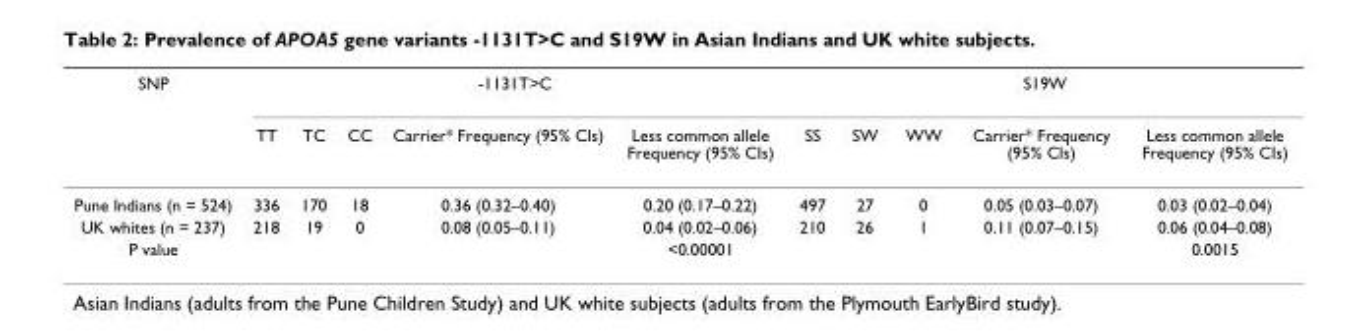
<table><thead><tr><td rowspan="2">SNP</td><td colspan="5">-1131T&gt;C</td><td colspan="5">S19W</td></tr><tr><td>TT</td><td>TC</td><td>CC</td><td>Carrier* Frequency (95% CIs)</td><td>Less common allele Frequency (95% CIs)</td><td>SS</td><td>SW</td><td>WW</td><td>Carrier* Frequency (95% CIs)</td><td>Less common allele Frequency (95% CIs)</td></tr></thead><tbody><tr><td>Pune Indians (n = 524)</td><td>336</td><td>170</td><td>18</td><td>0.36 (0.32–0.40)</td><td>0.20 (0.17–0.22)</td><td>497</td><td>27</td><td>0</td><td>0.05 (0.03–0.07)</td><td>0.03 (0.02–0.04)</td></tr><tr><td>UK whites (n = 237)</td><td>218</td><td>19</td><td>0</td><td>0.08 (0.05–0.11)</td><td>0.04 (0.02–0.06)</td><td>210</td><td>26</td><td>1</td><td>0.11 (0.07–0.15)</td><td>0.06 (0.04–0.08)</td></tr><tr><td>P value</td><td></td><td></td><td></td><td></td><td>&lt;0.00001</td><td></td><td></td><td></td><td></td><td>0.0015</td></tr></tbody></table>